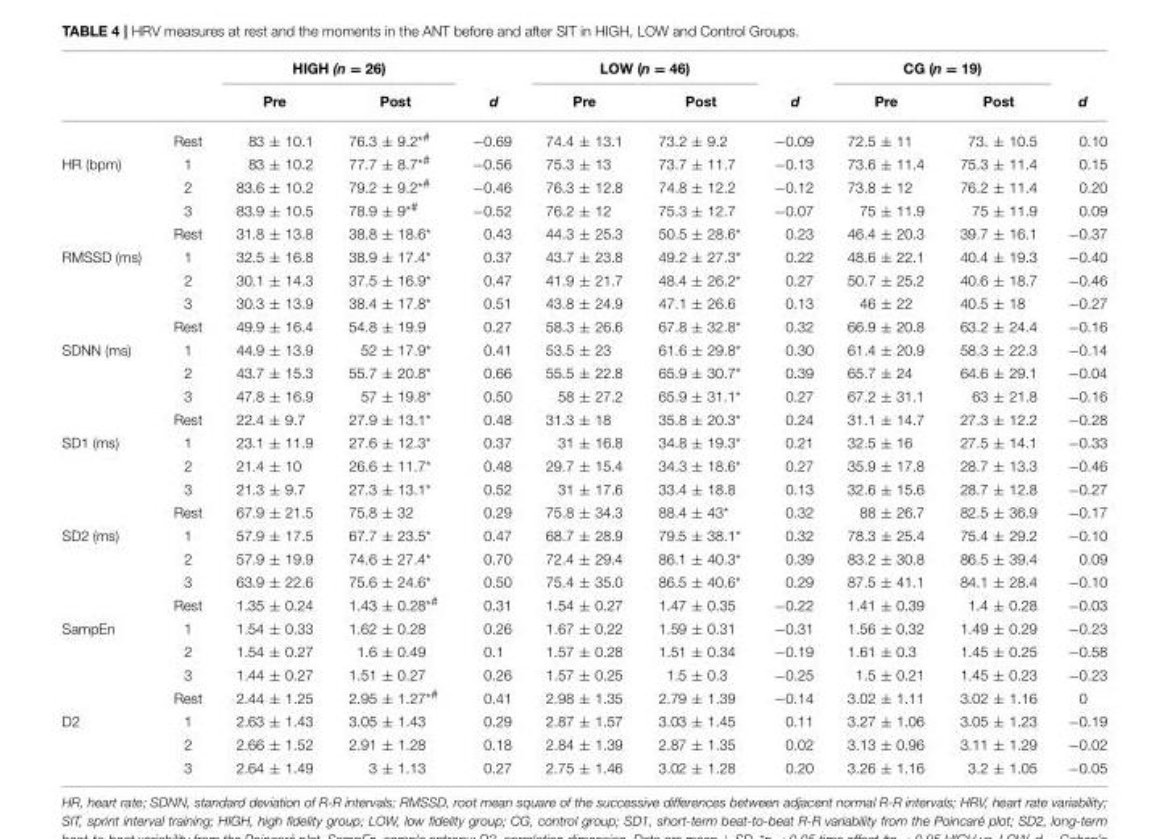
<table><thead><tr><td rowspan="2"></td><td rowspan="2"></td><td colspan="2">HIGH (n = 26)</td><td rowspan="2">d</td><td colspan="2">LOW (n = 46)</td><td rowspan="2">d</td><td colspan="2">CG (n = 19)</td><td rowspan="2">d</td></tr><tr><td>Pre</td><td>Post</td><td>Pre</td><td>Post</td><td>Pre</td><td>Post</td></tr></thead><tbody><tr><td></td><td>Rest</td><td>83 ± 10.1</td><td>76.3 ± 9.2<sup>*#</sup></td><td>−0.69</td><td>74.4 ± 13.1</td><td>73.2 ± 9.2</td><td>−0.09</td><td>72.5 ± 11</td><td>73. ± 10.5</td><td>0.10</td></tr><tr><td rowspan="4">HR (bpm)</td><td>1</td><td>83 ± 10.2</td><td>77.7 ± 8.7<sup>*#</sup></td><td>−0.56</td><td>75.3 ± 13</td><td>73.7 ± 11.7</td><td>−0.13</td><td>73.6 ± 11.4</td><td>75.3 ± 11.4</td><td>0.15</td></tr><tr><td>2</td><td>83.6 ± 10.2</td><td>79.2 ± 9.2<sup>*#</sup></td><td>−0.46</td><td>76.3 ± 12.8</td><td>74.8 ± 12.2</td><td>−0.12</td><td>73.8 ± 12</td><td>76.2 ± 11.4</td><td>0.20</td></tr><tr><td>3</td><td>83.9 ± 10.5</td><td>78.9 ± 9<sup>*#</sup></td><td>−0.52</td><td>76.2 ± 12</td><td>75.3 ± 12.7</td><td>−0.07</td><td>75 ± 11.9</td><td>75 ± 11.9</td><td>0.09</td></tr><tr><td>Rest</td><td>31.8 ± 13.8</td><td>38.8 ± 18.6*</td><td>0.43</td><td>44.3 ± 25.3</td><td>50.5 ± 28.6*</td><td>0.23</td><td>46.4 ± 20.3</td><td>39.7 ± 16.1</td><td>−0.37</td></tr><tr><td rowspan="4">RMSSD (ms)</td><td>1</td><td>32.5 ± 16.8</td><td>38.9 ± 17.4*</td><td>0.37</td><td>43.7 ± 23.8</td><td>49.2 ± 27.3*</td><td>0.22</td><td>48.6 ± 22.1</td><td>40.4 ± 19.3</td><td>−0.40</td></tr><tr><td>2</td><td>30.1 ± 14.3</td><td>37.5 ± 16.9*</td><td>0.47</td><td>41.9 ± 21.7</td><td>48.4 ± 26.2*</td><td>0.27</td><td>50.7 ± 25.2</td><td>40.6 ± 18.7</td><td>−0.46</td></tr><tr><td>3</td><td>30.3 ± 13.9</td><td>38.4 ± 17.8*</td><td>0.51</td><td>43.8 ± 24.9</td><td>47.1 ± 26.6</td><td>0.13</td><td>46 ± 22</td><td>40.5 ± 18</td><td>−0.27</td></tr><tr><td>Rest</td><td>49.9 ± 16.4</td><td>54.8 ± 19.9</td><td>0.27</td><td>58.3 ± 26.6</td><td>67.8 ± 32.8*</td><td>0.32</td><td>66.9 ± 20.8</td><td>63.2 ± 24.4</td><td>−0.16</td></tr><tr><td rowspan="4">SDNN (ms)</td><td>1</td><td>44.9 ± 13.9</td><td>52 ± 17.9*</td><td>0.41</td><td>53.5 ± 23</td><td>61.6 ± 29.8*</td><td>0.30</td><td>61.4 ± 20.9</td><td>58.3 ± 22.3</td><td>−0.14</td></tr><tr><td>2</td><td>43.7 ± 15.3</td><td>55.7 ± 20.8*</td><td>0.66</td><td>55.5 ± 22.8</td><td>65.9 ± 30.7*</td><td>0.39</td><td>65.7 ± 24</td><td>64.6 ± 29.1</td><td>−0.04</td></tr><tr><td>3</td><td>47.8 ± 16.9</td><td>57 ± 19.8*</td><td>0.50</td><td>58 ± 27.2</td><td>65.9 ± 31.1*</td><td>0.27</td><td>67.2 ± 31.1</td><td>63 ± 21.8</td><td>−0.16</td></tr><tr><td>Rest</td><td>22.4 ± 9.7</td><td>27.9 ± 13.1*</td><td>0.48</td><td>31.3 ± 18</td><td>35.8 ± 20.3*</td><td>0.24</td><td>31.1 ± 14.7</td><td>27.3 ± 12.2</td><td>−0.28</td></tr><tr><td rowspan="4">SD1 (ms)</td><td>1</td><td>23.1 ± 11.9</td><td>27.6 ± 12.3*</td><td>0.37</td><td>31 ± 16.8</td><td>34.8 ± 19.3*</td><td>0.21</td><td>32.5 ± 16</td><td>27.5 ± 14.1</td><td>−0.33</td></tr><tr><td>2</td><td>21.4 ± 10</td><td>26.6 ± 11.7*</td><td>0.48</td><td>29.7 ± 15.4</td><td>34.3 ± 18.6*</td><td>0.27</td><td>35.9 ± 17.8</td><td>28.7 ± 13.3</td><td>−0.46</td></tr><tr><td>3</td><td>21.3 ± 9.7</td><td>27.3 ± 13.1*</td><td>0.52</td><td>31 ± 17.6</td><td>33.4 ± 18.8</td><td>0.13</td><td>32.6 ± 15.6</td><td>28.7 ± 12.8</td><td>−0.27</td></tr><tr><td>Rest</td><td>67.9 ± 21.5</td><td>75.8 ± 32</td><td>0.29</td><td>75.8 ± 34.3</td><td>88.4 ± 43*</td><td>0.32</td><td>88 ± 26.7</td><td>82.5 ± 36.9</td><td>−0.17</td></tr><tr><td rowspan="4">SD2 (ms)</td><td>1</td><td>57.9 ± 17.5</td><td>67.7 ± 23.5*</td><td>0.47</td><td>68.7 ± 28.9</td><td>79.5 ± 38.1*</td><td>0.32</td><td>78.3 ± 25.4</td><td>75.4 ± 29.2</td><td>−0.10</td></tr><tr><td>2</td><td>57.9 ± 19.9</td><td>74.6 ± 27.4*</td><td>0.70</td><td>72.4 ± 29.4</td><td>86.1 ± 40.3*</td><td>0.39</td><td>83.2 ± 30.8</td><td>86.5 ± 39.4</td><td>0.09</td></tr><tr><td>3</td><td>63.9 ± 22.6</td><td>75.6 ± 24.6*</td><td>0.50</td><td>75.4 ± 35.0</td><td>86.5 ± 40.6*</td><td>0.29</td><td>87.5 ± 41.1</td><td>84.1 ± 28.4</td><td>−0.10</td></tr><tr><td>Rest</td><td>1.35 ± 0.24</td><td>1.43 ± 0.28<sup>*#</sup></td><td>0.31</td><td>1.54 ± 0.27</td><td>1.47 ± 0.35</td><td>−0.22</td><td>1.41 ± 0.39</td><td>1.4 ± 0.28</td><td>−0.03</td></tr><tr><td rowspan="4">SampEn</td><td>1</td><td>1.54 ± 0.33</td><td>1.62 ± 0.28</td><td>0.26</td><td>1.67 ± 0.22</td><td>1.59 ± 0.31</td><td>−0.31</td><td>1.56 ± 0.32</td><td>1.49 ± 0.29</td><td>−0.23</td></tr><tr><td>2</td><td>1.54 ± 0.27</td><td>1.6 ± 0.49</td><td>0.1</td><td>1.57 ± 0.28</td><td>1.51 ± 0.34</td><td>−0.19</td><td>1.61 ± 0.3</td><td>1.45 ± 0.25</td><td>−0.58</td></tr><tr><td>3</td><td>1.44 ± 0.27</td><td>1.51 ± 0.27</td><td>0.26</td><td>1.57 ± 0.25</td><td>1.5 ± 0.3</td><td>−0.25</td><td>1.5 ± 0.21</td><td>1.45 ± 0.23</td><td>−0.23</td></tr><tr><td>Rest</td><td>2.44 ± 1.25</td><td>2.95 ± 1.27<sup>*#</sup></td><td>0.41</td><td>2.98 ± 1.35</td><td>2.79 ± 1.39</td><td>−0.14</td><td>3.02 ± 1.11</td><td>3.02 ± 1.16</td><td>0</td></tr><tr><td rowspan="3">D2</td><td>1</td><td>2.63 ± 1.43</td><td>3.05 ± 1.43</td><td>0.29</td><td>2.87 ± 1.57</td><td>3.03 ± 1.45</td><td>0.11</td><td>3.27 ± 1.06</td><td>3.05 ± 1.23</td><td>−0.19</td></tr><tr><td>2</td><td>2.66 ± 1.52</td><td>2.91 ± 1.28</td><td>0.18</td><td>2.84 ± 1.39</td><td>2.87 ± 1.35</td><td>0.02</td><td>3.13 ± 0.96</td><td>3.11 ± 1.29</td><td>−0.02</td></tr><tr><td>3</td><td>2.64 ± 1.49</td><td>3 ± 1.13</td><td>0.27</td><td>2.75 ± 1.46</td><td>3.02 ± 1.28</td><td>0.20</td><td>3.26 ± 1.16</td><td>3.2 ± 1.05</td><td>−0.05</td></tr></tbody></table>